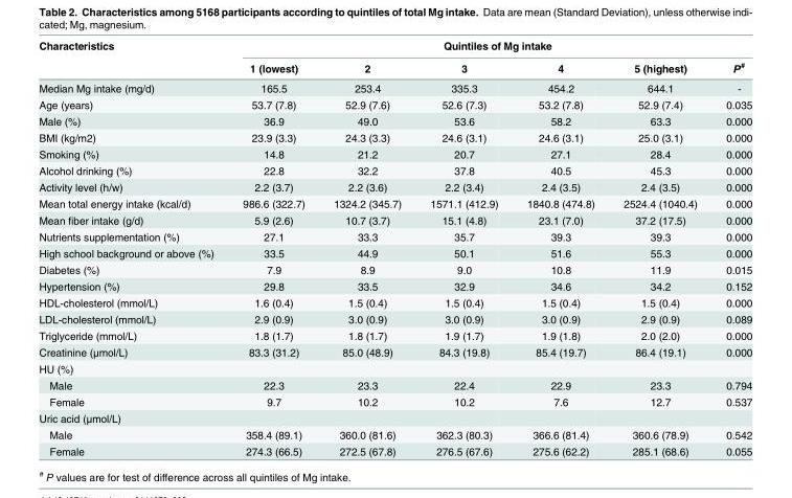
<table><thead><tr><td rowspan="2">Characteristics</td><td colspan="6">Quintiles of Mg intake</td></tr><tr><td>1 (lowest)</td><td>2</td><td>3</td><td>4</td><td>5 (highest)</td><td>P<sup>#</sup></td></tr></thead><tbody><tr><td>Median Mg intake (mg/d)</td><td>165.5</td><td>253.4</td><td>335.3</td><td>454.2</td><td>644.1</td><td>-</td></tr><tr><td>Age (years)</td><td>53.7 (7.8)</td><td>52.9 (7.6)</td><td>52.6 (7.3)</td><td>53.2 (7.8)</td><td>52.9 (7.4)</td><td>0.035</td></tr><tr><td>Male (%)</td><td>36.9</td><td>49.0</td><td>53.6</td><td>58.2</td><td>63.3</td><td>0.000</td></tr><tr><td>BMI (kg/m2)</td><td>23.9 (3.3)</td><td>24.3 (3.3)</td><td>24.6 (3.1)</td><td>24.6 (3.1)</td><td>25.0 (3.1)</td><td>0.000</td></tr><tr><td>Smoking (%)</td><td>14.8</td><td>21.2</td><td>20.7</td><td>27.1</td><td>28.4</td><td>0.000</td></tr><tr><td>Alcohol drinking (%)</td><td>22.8</td><td>32.2</td><td>37.8</td><td>40.5</td><td>45.3</td><td>0.000</td></tr><tr><td>Activity level (h/w)</td><td>2.2 (3.7)</td><td>2.2 (3.6)</td><td>2.2 (3.4)</td><td>2.4 (3.5)</td><td>2.4 (3.5)</td><td>0.000</td></tr><tr><td>Mean total energy intake (kcal/d)</td><td>986.6 (322.7)</td><td>1324.2 (345.7)</td><td>1571.1 (412.9)</td><td>1840.8 (474.8)</td><td>2524.4 (1040.4)</td><td>0.000</td></tr><tr><td>Mean fiber intake (g/d)</td><td>5.9 (2.6)</td><td>10.7 (3.7)</td><td>15.1 (4.8)</td><td>23.1 (7.0)</td><td>37.2 (17.5)</td><td>0.000</td></tr><tr><td>Nutrients supplementation (%)</td><td>27.1</td><td>33.3</td><td>35.7</td><td>39.3</td><td>39.3</td><td>0.000</td></tr><tr><td>High school background or above (%)</td><td>33.5</td><td>44.9</td><td>50.1</td><td>51.6</td><td>55.3</td><td>0.000</td></tr><tr><td>Diabetes (%)</td><td>7.9</td><td>8.9</td><td>9.0</td><td>10.8</td><td>11.9</td><td>0.015</td></tr><tr><td>Hypertension (%)</td><td>29.8</td><td>33.5</td><td>32.9</td><td>34.6</td><td>34.2</td><td>0.152</td></tr><tr><td>HDL-cholesterol (mmol/L)</td><td>1.6 (0.4)</td><td>1.5 (0.4)</td><td>1.5 (0.4)</td><td>1.5 (0.4)</td><td>1.5 (0.4)</td><td>0.000</td></tr><tr><td>LDL-cholesterol (mmol/L)</td><td>2.9 (0.9)</td><td>3.0 (0.9)</td><td>3.0 (0.9)</td><td>3.0 (0.9)</td><td>2.9 (0.9)</td><td>0.089</td></tr><tr><td>Triglyceride (mmol/L)</td><td>1.8 (1.7)</td><td>1.8 (1.7)</td><td>1.9 (1.7)</td><td>1.9 (1.8)</td><td>2.0 (2.0)</td><td>0.000</td></tr><tr><td>Creatinine (μmol/L)</td><td>83.3 (31.2)</td><td>85.0 (48.9)</td><td>84.3 (19.8)</td><td>85.4 (19.7)</td><td>86.4 (19.1)</td><td>0.000</td></tr><tr><td colspan="7">HU (%)</td></tr><tr><td>Male</td><td>22.3</td><td>23.3</td><td>22.4</td><td>22.9</td><td>23.3</td><td>0.794</td></tr><tr><td>Female</td><td>9.7</td><td>10.2</td><td>10.2</td><td>7.6</td><td>12.7</td><td>0.537</td></tr><tr><td colspan="7">Uric acid (μmol/L)</td></tr><tr><td>Male</td><td>358.4 (89.1)</td><td>360.0 (81.6)</td><td>362.3 (80.3)</td><td>366.6 (81.4)</td><td>360.6 (78.9)</td><td>0.542</td></tr><tr><td>Female</td><td>274.3 (66.5)</td><td>272.5 (67.8)</td><td>276.5 (67.6)</td><td>275.6 (62.2)</td><td>285.1 (68.6)</td><td>0.055</td></tr></tbody></table>